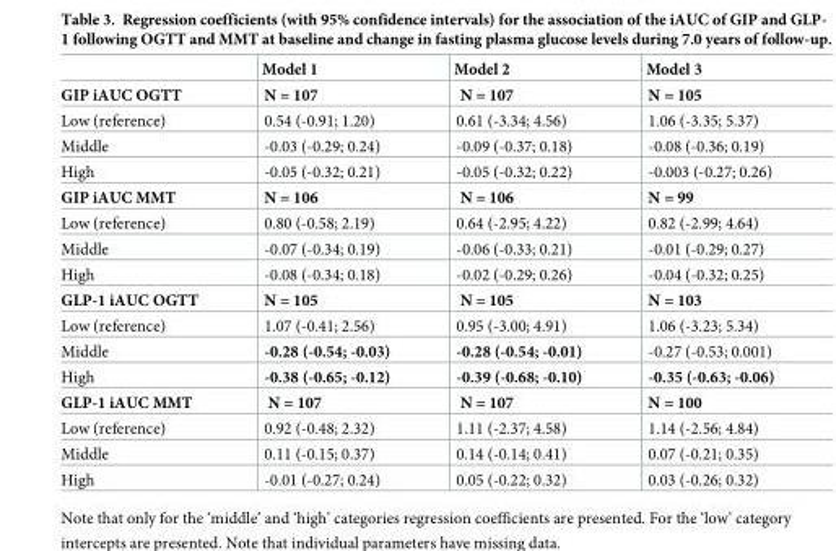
<table><thead><tr><td></td><td>Model 1</td><td>Model 2</td><td>Model 3</td></tr></thead><tbody><tr><td>GIP iAUC OGTT</td><td>N = 107</td><td>N = 107</td><td>N = 105</td></tr><tr><td>Low (reference)</td><td>0.54 (-0.91; 1.20)</td><td>0.61 (-3.34; 4.56)</td><td>1.06 (-3.35; 5.37)</td></tr><tr><td>Middle</td><td>-0.03 (-0.29; 0.24)</td><td>-0.09 (-0.37; 0.18)</td><td>-0.08 (-0.36; 0.19)</td></tr><tr><td>High</td><td>-0.05 (-0.32; 0.21)</td><td>-0.05 (-0.32; 0.22)</td><td>-0.003 (-0.27; 0.26)</td></tr><tr><td>GIP iAUC MMT</td><td>N = 106</td><td>N = 106</td><td>N = 99</td></tr><tr><td>Low (reference)</td><td>0.80 (-0.58; 2.19)</td><td>0.64 (-2.95; 4.22)</td><td>0.82 (-2.99; 4.64)</td></tr><tr><td>Middle</td><td>-0.07 (-0.34; 0.19)</td><td>-0.06 (-0.33; 0.21)</td><td>-0.01 (-0.29; 0.27)</td></tr><tr><td>High</td><td>-0.08 (-0.34; 0.18)</td><td>-0.02 (-0.29; 0.26)</td><td>-0.04 (-0.32; 0.25)</td></tr><tr><td>GLP-1 iAUC OGTT</td><td>N = 105</td><td>N = 105</td><td>N = 103</td></tr><tr><td>Low (reference)</td><td>1.07 (-0.41; 2.56)</td><td>0.95 (-3.00; 4.91)</td><td>1.06 (-3.23; 5.34)</td></tr><tr><td>Middle</td><td>-0.28 (-0.54; -0.03)</td><td>-0.28 (-0.54; -0.01)</td><td>-0.27 (-0.53; 0.001)</td></tr><tr><td>High</td><td>-0.38 (-0.65; -0.12)</td><td>-0.39 (-0.68; -0.10)</td><td>-0.35 (-0.63; -0.06)</td></tr><tr><td>GLP-1 iAUC MMT</td><td>N = 107</td><td>N = 107</td><td>N = 100</td></tr><tr><td>Low (reference)</td><td>0.92 (-0.48; 2.32)</td><td>1.11 (-2.37; 4.58)</td><td>1.14 (-2.56; 4.84)</td></tr><tr><td>Middle</td><td>0.11 (-0.15; 0.37)</td><td>0.14 (-0.14; 0.41)</td><td>0.07 (-0.21; 0.35)</td></tr><tr><td>High</td><td>-0.01 (-0.27; 0.24)</td><td>0.05 (-0.22; 0.32)</td><td>0.03 (-0.26; 0.32)</td></tr></tbody></table>